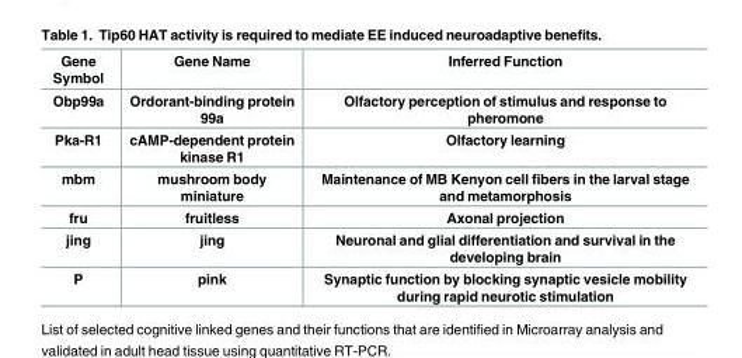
<table><thead><tr><td>Gene Symbol</td><td>Gene Name</td><td>Inferred Function</td></tr></thead><tbody><tr><td>Obp99a</td><td>Ordorant-binding protein 99a</td><td>Olfactory perception of stimulus and response to pheromone</td></tr><tr><td>Pka-R1</td><td>cAMP-dependent protein kinase R1</td><td>Olfactory learning</td></tr><tr><td>mbm</td><td>mushroom body miniature</td><td>Maintenance of MB Kenyon cell fibers in the larval stage and metamorphosis</td></tr><tr><td>fru</td><td>fruitless</td><td>Axonal projection</td></tr><tr><td>jing</td><td>jing</td><td>Neuronal and glial differentiation and survival in the developing brain</td></tr><tr><td>P</td><td>pink</td><td>Synaptic function by blocking synaptic vesicle mobility during rapid neurotic stimulation</td></tr></tbody></table>